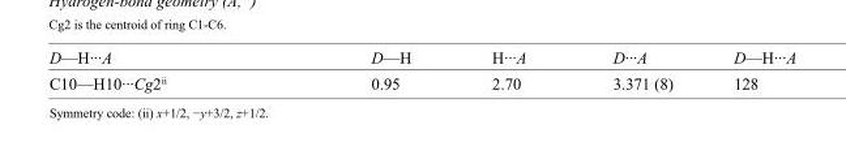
<table><tbody><tr><td>D—H···A</td><td>D—H</td><td>H···A</td><td>D···A</td><td>D—H···A</td></tr><tr><td>C10—H10···Cg2<sup>ii</sup></td><td>0.95</td><td>2.70</td><td>3.371 (8)</td><td>128</td></tr></tbody></table>